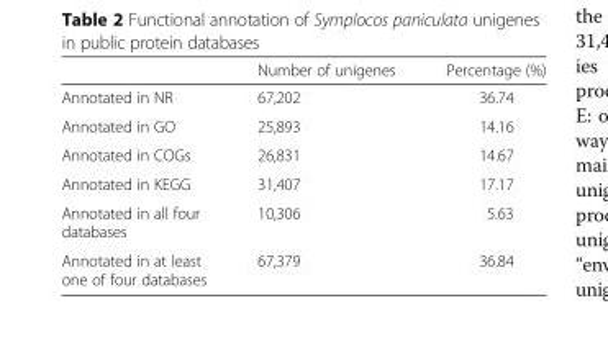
<table><thead><tr><td></td><td>Number of unigenes</td><td>Percentage (%)</td></tr></thead><tbody><tr><td>Annotated in NR</td><td>67,202</td><td>36.74</td></tr><tr><td>Annotated in GO</td><td>25,893</td><td>14.16</td></tr><tr><td>Annotated in COGs</td><td>26,831</td><td>14.67</td></tr><tr><td>Annotated in KEGG</td><td>31,407</td><td>17.17</td></tr><tr><td>Annotated in all four databases</td><td>10,306</td><td>5.63</td></tr><tr><td>Annotated in at least one of four databases</td><td>67,379</td><td>36.84</td></tr></tbody></table>